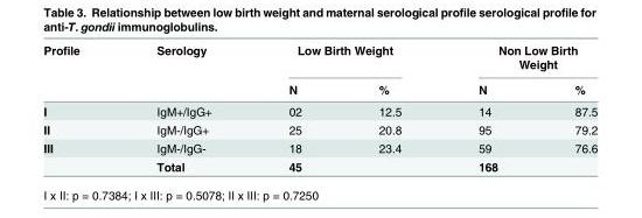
<table><thead><tr><td rowspan="2">Profile</td><td rowspan="2">Serology</td><td colspan="2">Low Birth Weight</td><td colspan="2">Non Low Birth Weight</td></tr><tr><td>N</td><td>%</td><td>N</td><td>%</td></tr></thead><tbody><tr><td>I</td><td>IgM+/IgG+</td><td>02</td><td>12.5</td><td>14</td><td>87.5</td></tr><tr><td>II</td><td>IgM-/IgG+</td><td>25</td><td>20.8</td><td>95</td><td>79.2</td></tr><tr><td rowspan="2">III</td><td>IgM-/IgG-</td><td>18</td><td>23.4</td><td>59</td><td>76.6</td></tr><tr><td>Total</td><td>45</td><td></td><td>168</td><td></td></tr></tbody></table>